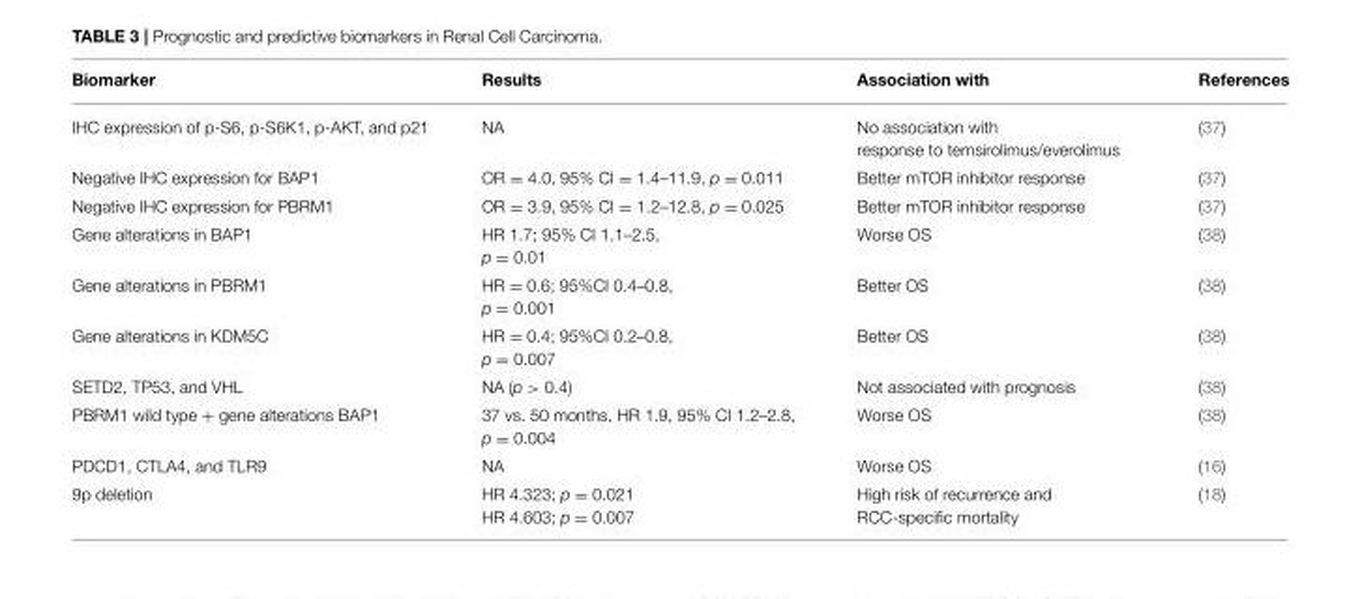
<table><thead><tr><td>Biomarker</td><td>Results</td><td>Association with</td><td>References</td></tr></thead><tbody><tr><td>IHC expression of p-S6, p-S6K1, p-AKT, and p21</td><td>NA</td><td>No association with response to temsirolimus/everolimus</td><td>(37)</td></tr><tr><td>Negative IHC expression for BAP1</td><td>OR = 4.0, 95% CI = 1.4–11.9, p = 0.011</td><td>Better mTOR inhibitor response</td><td>(37)</td></tr><tr><td>Negative IHC expression for PBRM1</td><td>OR = 3.9, 95% CI = 1.2–12.8, p = 0.025</td><td>Better mTOR inhibitor response</td><td>(37)</td></tr><tr><td>Gene alterations in BAP1</td><td>HR 1.7; 95% CI 1.1–2.5, p = 0.01</td><td>Worse OS</td><td>(38)</td></tr><tr><td>Gene alterations in PBRM1</td><td>HR = 0.6; 95%CI 0.4–0.8, p = 0.001</td><td>Better OS</td><td>(38)</td></tr><tr><td>Gene alterations in KDM5C</td><td>HR = 0.4; 95%CI 0.2–0.8, p = 0.007</td><td>Better OS</td><td>(38)</td></tr><tr><td>SETD2, TP53, and VHL</td><td>NA (p &gt; 0.4)</td><td>Not associated with prognosis</td><td>(38)</td></tr><tr><td>PBRM1 wild type + gene alterations BAP1</td><td>37 vs. 50 months, HR 1.9, 95% CI 1.2–2.8, p = 0.004</td><td>Worse OS</td><td>(38)</td></tr><tr><td>PDCD1, CTLA4, and TLR9</td><td>NA</td><td>Worse OS</td><td>(16)</td></tr><tr><td>9p deletion</td><td>HR 4.323; p = 0.021 HR 4.603; p = 0.007</td><td>High risk of recurrence and RCC-specific mortality</td><td>(18)</td></tr></tbody></table>